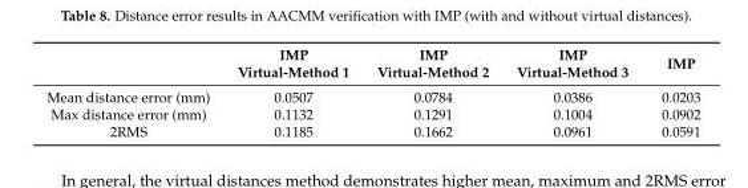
<table><thead><tr><td></td><td>IMP Virtual-Method 1</td><td>IMP Virtual-Method 2</td><td>IMP Virtual-Method 3</td><td>IMP</td></tr></thead><tbody><tr><td>Mean distance error (mm)</td><td>0.0507</td><td>0.0784</td><td>0.0386</td><td>0.0203</td></tr><tr><td>Max distance error (mm)</td><td>0.1132</td><td>0.1291</td><td>0.1004</td><td>0.0902</td></tr><tr><td>2RMS</td><td>0.1185</td><td>0.1662</td><td>0.0961</td><td>0.0591</td></tr></tbody></table>